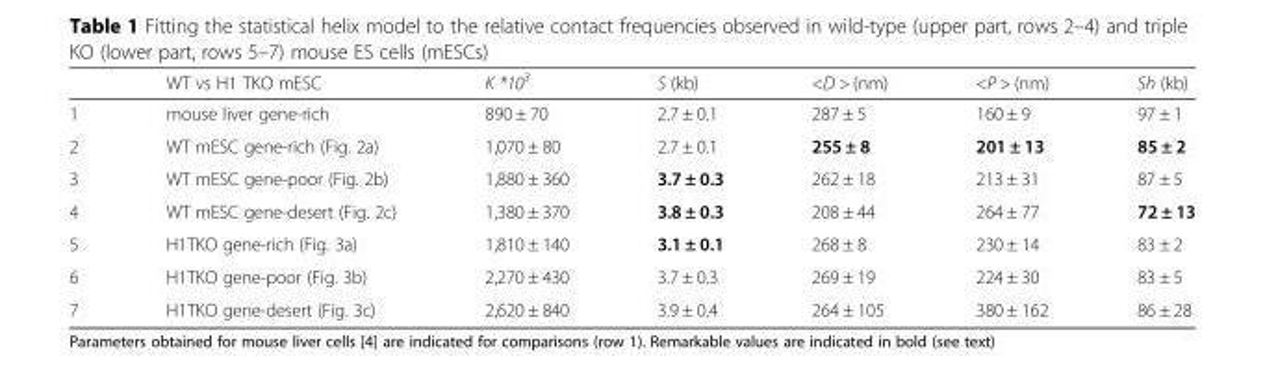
<table><thead><tr><td></td><td>WT vs H1 TKO mESC</td><td>K *10<sup>3</sup></td><td>S (kb)</td><td>&lt;D &gt; (nm)</td><td>&lt;P &gt; (nm)</td><td>Sh (kb)</td></tr></thead><tbody><tr><td>1</td><td>mouse liver gene-rich</td><td>890 ± 70</td><td>2.7 ± 0.1</td><td>287 ± 5</td><td>160 ± 9</td><td>97 ± 1</td></tr><tr><td>2</td><td>WT mESC gene-rich (Fig. 2a)</td><td>1,070 ± 80</td><td>2.7 ± 0.1</td><td>255 ± 8</td><td>201 ± 13</td><td>85 ± 2</td></tr><tr><td>3</td><td>WT mESC gene-poor (Fig. 2b)</td><td>1,880 ± 360</td><td>3.7 ± 0.3</td><td>262 ± 18</td><td>213 ± 31</td><td>87 ± 5</td></tr><tr><td>4</td><td>WT mESC gene-desert (Fig. 2c)</td><td>1,380 ± 370</td><td>3.8 ± 0.3</td><td>208 ± 44</td><td>264 ± 77</td><td>72 ± 13</td></tr><tr><td>5</td><td>H1TKO gene-rich (Fig. 3a)</td><td>1,810 ± 140</td><td>3.1 ± 0.1</td><td>268 ± 8</td><td>230 ± 14</td><td>83 ± 2</td></tr><tr><td>6</td><td>H1TKO gene-poor (Fig. 3b)</td><td>2,270 ± 430</td><td>3.7 ± 0.3</td><td>269 ± 19</td><td>224 ± 30</td><td>83 ± 5</td></tr><tr><td>7</td><td>H1TKO gene-desert (Fig. 3c)</td><td>2,620 ± 840</td><td>3.9 ± 0.4</td><td>264 ± 105</td><td>380 ± 162</td><td>86 ± 28</td></tr></tbody></table>